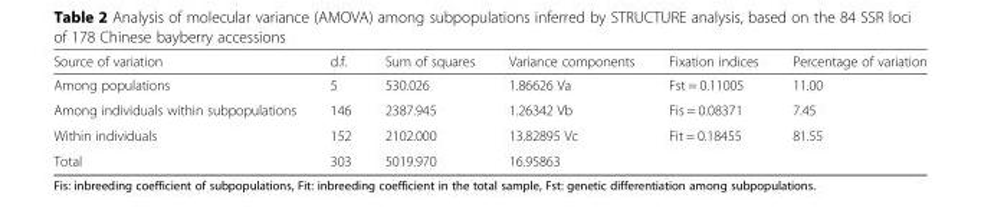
<table><thead><tr><td>Source of variation</td><td>d.f.</td><td>Sum of squares</td><td>Variance components</td><td>Fixation indices</td><td>Percentage of variation</td></tr></thead><tbody><tr><td>Among populations</td><td>5</td><td>530.026</td><td>1.86626 Va</td><td>Fst = 0.11005</td><td>11.00</td></tr><tr><td>Among individuals within subpopulations</td><td>146</td><td>2387.945</td><td>1.26342 Vb</td><td>Fis = 0.08371</td><td>7.45</td></tr><tr><td>Within individuals</td><td>152</td><td>2102.000</td><td>13.82895 Vc</td><td>Fit = 0.18455</td><td>81.55</td></tr><tr><td>Total</td><td>303</td><td>5019.970</td><td>16.95863</td><td></td><td></td></tr></tbody></table>